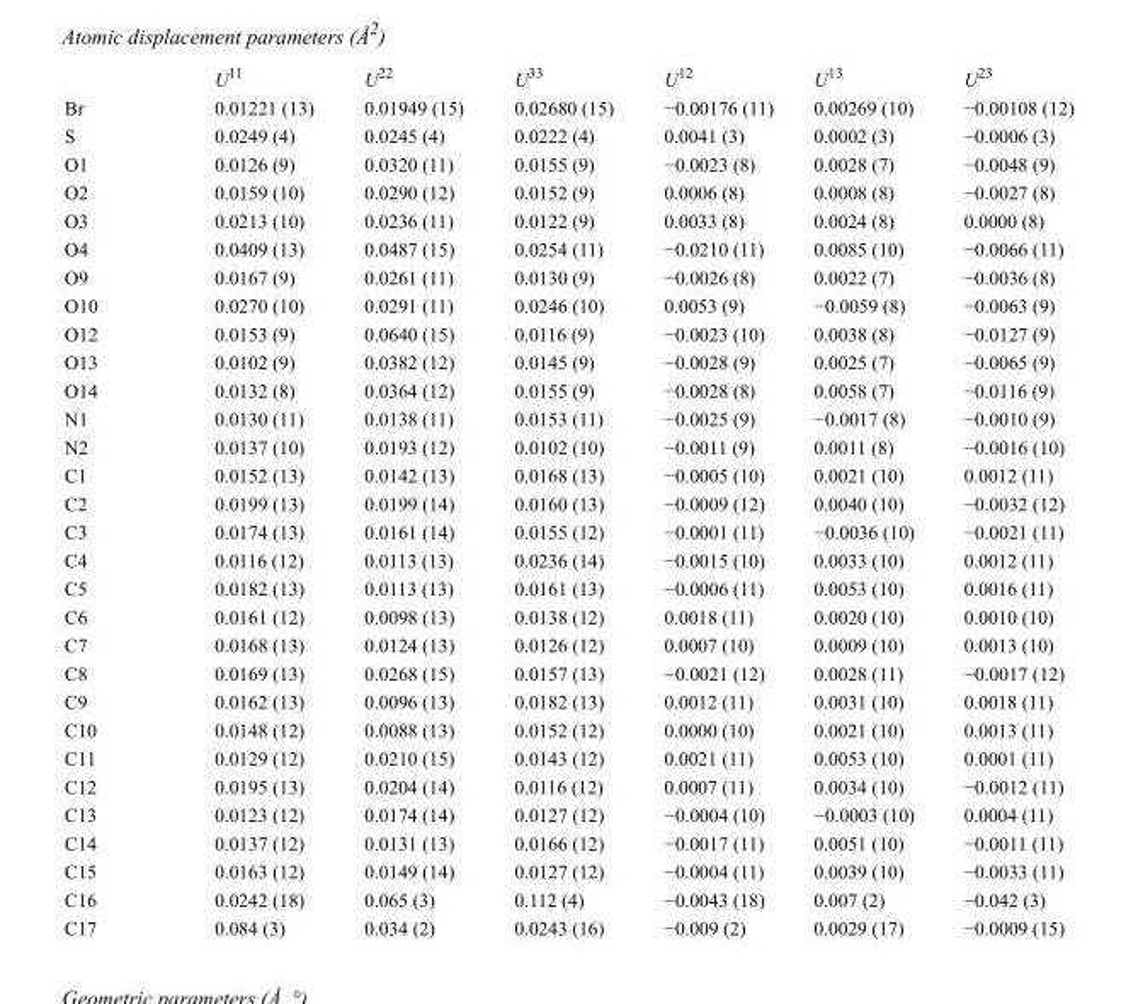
<table><thead><tr><td></td><td>U<sup>11</sup></td><td>U<sup>22</sup></td><td>U<sup>33</sup></td><td>U<sup>12</sup></td><td>U<sup>13</sup></td><td>U<sup>23</sup></td></tr></thead><tbody><tr><td>Br</td><td>0.01221 (13)</td><td>0.01949 (15)</td><td>0.02680 (15)</td><td>−0.00176 (11)</td><td>0.00269 (10)</td><td>−0.00108 (12)</td></tr><tr><td>S</td><td>0.0249 (4)</td><td>0.0245 (4)</td><td>0.0222 (4)</td><td>0.0041 (3)</td><td>0.0002 (3)</td><td>−0.0006 (3)</td></tr><tr><td>O1</td><td>0.0126 (9)</td><td>0.0320 (11)</td><td>0.0155 (9)</td><td>−0.0023 (8)</td><td>0.0028 (7)</td><td>−0.0048 (9)</td></tr><tr><td>O2</td><td>0.0159 (10)</td><td>0.0290 (12)</td><td>0.0152 (9)</td><td>0.0006 (8)</td><td>0.0008 (8)</td><td>−0.0027 (8)</td></tr><tr><td>O3</td><td>0.0213 (10)</td><td>0.0236 (11)</td><td>0.0122 (9)</td><td>0.0033 (8)</td><td>0.0024 (8)</td><td>0.0000 (8)</td></tr><tr><td>O4</td><td>0.0409 (13)</td><td>0.0487 (15)</td><td>0.0254 (11)</td><td>−0.0210 (11)</td><td>0.0085 (10)</td><td>−0.0066 (11)</td></tr><tr><td>O9</td><td>0.0167 (9)</td><td>0.0261 (11)</td><td>0.0130 (9)</td><td>−0.0026 (8)</td><td>0.0022 (7)</td><td>−0.0036 (8)</td></tr><tr><td>O10</td><td>0.0270 (10)</td><td>0.0291 (11)</td><td>0.0246 (10)</td><td>0.0053 (9)</td><td>−0.0059 (8)</td><td>−0.0063 (9)</td></tr><tr><td>O12</td><td>0.0153 (9)</td><td>0.0640 (15)</td><td>0.0116 (9)</td><td>−0.0023 (10)</td><td>0.0038 (8)</td><td>−0.0127 (9)</td></tr><tr><td>O13</td><td>0.0102 (9)</td><td>0.0382 (12)</td><td>0.0145 (9)</td><td>−0.0028 (9)</td><td>0.0025 (7)</td><td>−0.0065 (9)</td></tr><tr><td>O14</td><td>0.0132 (8)</td><td>0.0364 (12)</td><td>0.0155 (9)</td><td>−0.0028 (8)</td><td>0.0058 (7)</td><td>−0.0116 (9)</td></tr><tr><td>N1</td><td>0.0130 (11)</td><td>0.0138 (11)</td><td>0.0153 (11)</td><td>−0.0025 (9)</td><td>−0.0017 (8)</td><td>−0.0010 (9)</td></tr><tr><td>N2</td><td>0.0137 (10)</td><td>0.0193 (12)</td><td>0.0102 (10)</td><td>−0.0011 (9)</td><td>0.0011 (8)</td><td>−0.0016 (10)</td></tr><tr><td>C1</td><td>0.0152 (13)</td><td>0.0142 (13)</td><td>0.0168 (13)</td><td>−0.0005 (10)</td><td>0.0021 (10)</td><td>0.0012 (11)</td></tr><tr><td>C2</td><td>0.0199 (13)</td><td>0.0199 (14)</td><td>0.0160 (13)</td><td>−0.0009 (12)</td><td>0.0040 (10)</td><td>−0.0032 (12)</td></tr><tr><td>C3</td><td>0.0174 (13)</td><td>0.0161 (14)</td><td>0.0155 (12)</td><td>−0.0001 (11)</td><td>−0.0036 (10)</td><td>−0.0021 (11)</td></tr><tr><td>C4</td><td>0.0116 (12)</td><td>0.0113 (13)</td><td>0.0236 (14)</td><td>−0.0015 (10)</td><td>0.0033 (10)</td><td>0.0012 (11)</td></tr><tr><td>C5</td><td>0.0182 (13)</td><td>0.0113 (13)</td><td>0.0161 (13)</td><td>−0.0006 (11)</td><td>0.0053 (10)</td><td>0.0016 (11)</td></tr><tr><td>C6</td><td>0.0161 (12)</td><td>0.0098 (13)</td><td>0.0138 (12)</td><td>0.0018 (11)</td><td>0.0020 (10)</td><td>0.0010 (10)</td></tr><tr><td>C7</td><td>0.0168 (13)</td><td>0.0124 (13)</td><td>0.0126 (12)</td><td>0.0007 (10)</td><td>0.0009 (10)</td><td>0.0013 (10)</td></tr><tr><td>C8</td><td>0.0169 (13)</td><td>0.0268 (15)</td><td>0.0157 (13)</td><td>−0.0021 (12)</td><td>0.0028 (11)</td><td>−0.0017 (12)</td></tr><tr><td>C9</td><td>0.0162 (13)</td><td>0.0096 (13)</td><td>0.0182 (13)</td><td>0.0012 (11)</td><td>0.0031 (10)</td><td>0.0018 (11)</td></tr><tr><td>C10</td><td>0.0148 (12)</td><td>0.0088 (13)</td><td>0.0152 (12)</td><td>0.0000 (10)</td><td>0.0021 (10)</td><td>0.0013 (11)</td></tr><tr><td>C11</td><td>0.0129 (12)</td><td>0.0210 (15)</td><td>0.0143 (12)</td><td>0.0021 (11)</td><td>0.0053 (10)</td><td>0.0001 (11)</td></tr><tr><td>C12</td><td>0.0195 (13)</td><td>0.0204 (14)</td><td>0.0116 (12)</td><td>0.0007 (11)</td><td>0.0034 (10)</td><td>−0.0012 (11)</td></tr><tr><td>C13</td><td>0.0123 (12)</td><td>0.0174 (14)</td><td>0.0127 (12)</td><td>−0.0004 (10)</td><td>−0.0003 (10)</td><td>0.0004 (11)</td></tr><tr><td>C14</td><td>0.0137 (12)</td><td>0.0131 (13)</td><td>0.0166 (12)</td><td>−0.0017 (11)</td><td>0.0051 (10)</td><td>−0.0011 (11)</td></tr><tr><td>C15</td><td>0.0163 (12)</td><td>0.0149 (14)</td><td>0.0127 (12)</td><td>−0.0004 (11)</td><td>0.0039 (10)</td><td>−0.0033 (11)</td></tr><tr><td>C16</td><td>0.0242 (18)</td><td>0.065 (3)</td><td>0.112 (4)</td><td>−0.0043 (18)</td><td>0.007 (2)</td><td>−0.042 (3)</td></tr><tr><td>C17</td><td>0.084 (3)</td><td>0.034 (2)</td><td>0.0243 (16)</td><td>−0.009 (2)</td><td>0.0029 (17)</td><td>−0.0009 (15)</td></tr></tbody></table>